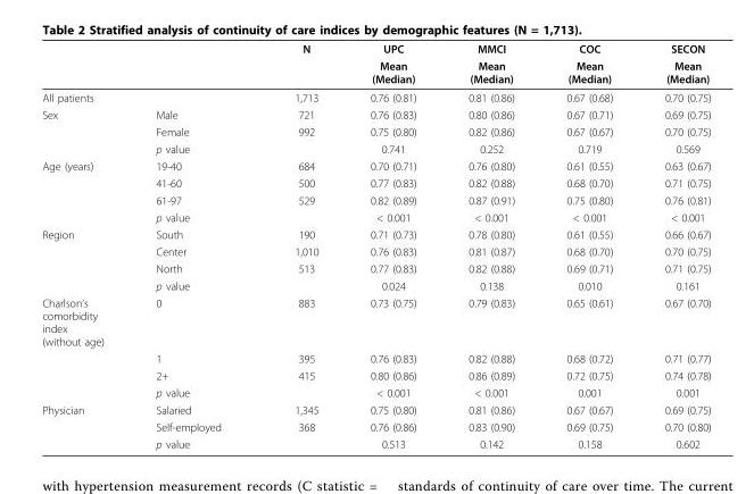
<table><thead><tr><td rowspan="2"></td><td rowspan="2"></td><td rowspan="2">N</td><td rowspan="2">UPC Mean (Median)</td><td rowspan="2">MMCI Mean (Median)</td><td rowspan="2">COC Mean (Median)</td><td rowspan="2">SECON Mean (Median)</td></tr><tr></tr></thead><tbody><tr><td>All patients</td><td></td><td>1,713</td><td>0.76 (0.81)</td><td>0.81 (0.86)</td><td>0.67 (0.68)</td><td>0.70 (0.75)</td></tr><tr><td rowspan="3">Sex</td><td>Male</td><td>721</td><td>0.76 (0.83)</td><td>0.80 (0.86)</td><td>0.67 (0.71)</td><td>0.69 (0.75)</td></tr><tr><td>Female</td><td>992</td><td>0.75 (0.80)</td><td>0.82 (0.86)</td><td>0.67 (0.67)</td><td>0.70 (0.75)</td></tr><tr><td>p value</td><td></td><td>0.741</td><td>0.252</td><td>0.719</td><td>0.569</td></tr><tr><td rowspan="4">Age (years)</td><td>19-40</td><td>684</td><td>0.70 (0.71)</td><td>0.76 (0.80)</td><td>0.61 (0.55)</td><td>0.63 (0.67)</td></tr><tr><td>41-60</td><td>500</td><td>0.77 (0.83)</td><td>0.82 (0.88)</td><td>0.68 (0.70)</td><td>0.71 (0.75)</td></tr><tr><td>61-97</td><td>529</td><td>0.82 (0.89)</td><td>0.87 (0.91)</td><td>0.75 (0.80)</td><td>0.76 (0.81)</td></tr><tr><td>p value</td><td></td><td>&lt; 0.001</td><td>&lt; 0.001</td><td>&lt; 0.001</td><td>&lt; 0.001</td></tr><tr><td rowspan="4">Region</td><td>South</td><td>190</td><td>0.71 (0.73)</td><td>0.78 (0.80)</td><td>0.61 (0.55)</td><td>0.66 (0.67)</td></tr><tr><td>Center</td><td>1,010</td><td>0.76 (0.83)</td><td>0.81 (0.87)</td><td>0.68 (0.70)</td><td>0.70 (0.75)</td></tr><tr><td>North</td><td>513</td><td>0.77 (0.83)</td><td>0.82 (0.88)</td><td>0.69 (0.71)</td><td>0.71 (0.75)</td></tr><tr><td>p value</td><td></td><td>0.024</td><td>0.138</td><td>0.010</td><td>0.161</td></tr><tr><td rowspan="4">Charlson’s comorbidity index (without age)</td><td>0</td><td>883</td><td>0.73 (0.75)</td><td>0.79 (0.83)</td><td>0.65 (0.61)</td><td>0.67 (0.70)</td></tr><tr><td>1</td><td>395</td><td>0.76 (0.83)</td><td>0.82 (0.88)</td><td>0.68 (0.72)</td><td>0.71 (0.77)</td></tr><tr><td>2+</td><td>415</td><td>0.80 (0.86)</td><td>0.86 (0.89)</td><td>0.72 (0.75)</td><td>0.74 (0.78)</td></tr><tr><td>p value</td><td></td><td>&lt; 0.001</td><td>&lt; 0.001</td><td>0.001</td><td>0.001</td></tr><tr><td rowspan="3">Physician</td><td>Salaried</td><td>1,345</td><td>0.75 (0.80)</td><td>0.81 (0.86)</td><td>0.67 (0.67)</td><td>0.69 (0.75)</td></tr><tr><td>Self-employed</td><td>368</td><td>0.76 (0.86)</td><td>0.83 (0.90)</td><td>0.69 (0.75)</td><td>0.70 (0.80)</td></tr><tr><td>p value</td><td></td><td>0.513</td><td>0.142</td><td>0.158</td><td>0.602</td></tr></tbody></table>